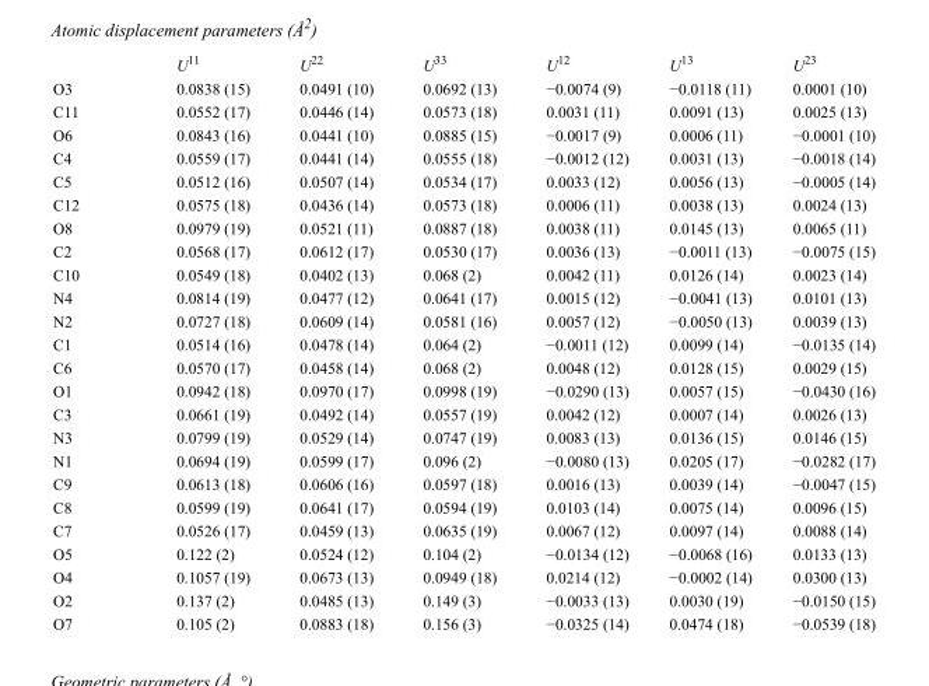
<table><thead><tr><td></td><td>U<sup>11</sup></td><td>U<sup>22</sup></td><td>U<sup>33</sup></td><td>U<sup>12</sup></td><td>U<sup>13</sup></td><td>U<sup>23</sup></td></tr></thead><tbody><tr><td>O3</td><td>0.0838 (15)</td><td>0.0491 (10)</td><td>0.0692 (13)</td><td>−0.0074 (9)</td><td>−0.0118 (11)</td><td>0.0001 (10)</td></tr><tr><td>C11</td><td>0.0552 (17)</td><td>0.0446 (14)</td><td>0.0573 (18)</td><td>0.0031 (11)</td><td>0.0091 (13)</td><td>0.0025 (13)</td></tr><tr><td>O6</td><td>0.0843 (16)</td><td>0.0441 (10)</td><td>0.0885 (15)</td><td>−0.0017 (9)</td><td>0.0006 (11)</td><td>−0.0001 (10)</td></tr><tr><td>C4</td><td>0.0559 (17)</td><td>0.0441 (14)</td><td>0.0555 (18)</td><td>−0.0012 (12)</td><td>0.0031 (13)</td><td>−0.0018 (14)</td></tr><tr><td>C5</td><td>0.0512 (16)</td><td>0.0507 (14)</td><td>0.0534 (17)</td><td>0.0033 (12)</td><td>0.0056 (13)</td><td>−0.0005 (14)</td></tr><tr><td>C12</td><td>0.0575 (18)</td><td>0.0436 (14)</td><td>0.0573 (18)</td><td>0.0006 (11)</td><td>0.0038 (13)</td><td>0.0024 (13)</td></tr><tr><td>O8</td><td>0.0979 (19)</td><td>0.0521 (11)</td><td>0.0887 (18)</td><td>0.0038 (11)</td><td>0.0145 (13)</td><td>0.0065 (11)</td></tr><tr><td>C2</td><td>0.0568 (17)</td><td>0.0612 (17)</td><td>0.0530 (17)</td><td>0.0036 (13)</td><td>−0.0011 (13)</td><td>−0.0075 (15)</td></tr><tr><td>C10</td><td>0.0549 (18)</td><td>0.0402 (13)</td><td>0.068 (2)</td><td>0.0042 (11)</td><td>0.0126 (14)</td><td>0.0023 (14)</td></tr><tr><td>N4</td><td>0.0814 (19)</td><td>0.0477 (12)</td><td>0.0641 (17)</td><td>0.0015 (12)</td><td>−0.0041 (13)</td><td>0.0101 (13)</td></tr><tr><td>N2</td><td>0.0727 (18)</td><td>0.0609 (14)</td><td>0.0581 (16)</td><td>0.0057 (12)</td><td>−0.0050 (13)</td><td>0.0039 (13)</td></tr><tr><td>C1</td><td>0.0514 (16)</td><td>0.0478 (14)</td><td>0.064 (2)</td><td>−0.0011 (12)</td><td>0.0099 (14)</td><td>−0.0135 (14)</td></tr><tr><td>C6</td><td>0.0570 (17)</td><td>0.0458 (14)</td><td>0.068 (2)</td><td>0.0048 (12)</td><td>0.0128 (15)</td><td>0.0029 (15)</td></tr><tr><td>O1</td><td>0.0942 (18)</td><td>0.0970 (17)</td><td>0.0998 (19)</td><td>−0.0290 (13)</td><td>0.0057 (15)</td><td>−0.0430 (16)</td></tr><tr><td>C3</td><td>0.0661 (19)</td><td>0.0492 (14)</td><td>0.0557 (19)</td><td>0.0042 (12)</td><td>0.0007 (14)</td><td>0.0026 (13)</td></tr><tr><td>N3</td><td>0.0799 (19)</td><td>0.0529 (14)</td><td>0.0747 (19)</td><td>0.0083 (13)</td><td>0.0136 (15)</td><td>0.0146 (15)</td></tr><tr><td>N1</td><td>0.0694 (19)</td><td>0.0599 (17)</td><td>0.096 (2)</td><td>−0.0080 (13)</td><td>0.0205 (17)</td><td>−0.0282 (17)</td></tr><tr><td>C9</td><td>0.0613 (18)</td><td>0.0606 (16)</td><td>0.0597 (18)</td><td>0.0016 (13)</td><td>0.0039 (14)</td><td>−0.0047 (15)</td></tr><tr><td>C8</td><td>0.0599 (19)</td><td>0.0641 (17)</td><td>0.0594 (19)</td><td>0.0103 (14)</td><td>0.0075 (14)</td><td>0.0096 (15)</td></tr><tr><td>C7</td><td>0.0526 (17)</td><td>0.0459 (13)</td><td>0.0635 (19)</td><td>0.0067 (12)</td><td>0.0097 (14)</td><td>0.0088 (14)</td></tr><tr><td>O5</td><td>0.122 (2)</td><td>0.0524 (12)</td><td>0.104 (2)</td><td>−0.0134 (12)</td><td>−0.0068 (16)</td><td>0.0133 (13)</td></tr><tr><td>O4</td><td>0.1057 (19)</td><td>0.0673 (13)</td><td>0.0949 (18)</td><td>0.0214 (12)</td><td>−0.0002 (14)</td><td>0.0300 (13)</td></tr><tr><td>O2</td><td>0.137 (2)</td><td>0.0485 (13)</td><td>0.149 (3)</td><td>−0.0033 (13)</td><td>0.0030 (19)</td><td>−0.0150 (15)</td></tr><tr><td>O7</td><td>0.105 (2)</td><td>0.0883 (18)</td><td>0.156 (3)</td><td>−0.0325 (14)</td><td>0.0474 (18)</td><td>−0.0539 (18)</td></tr></tbody></table>